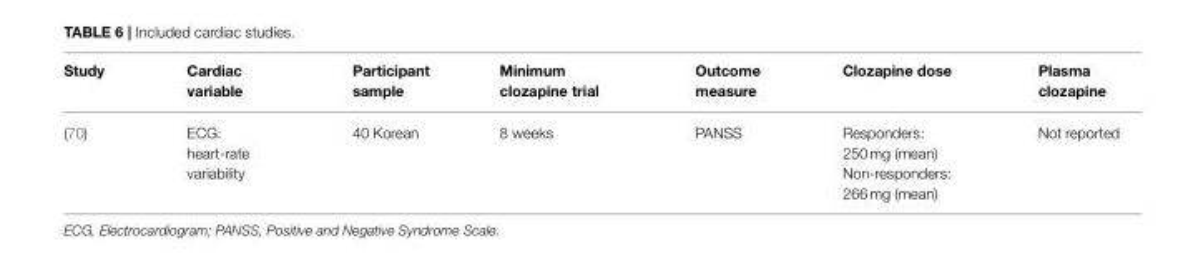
<table><thead><tr><td>Study</td><td>Cardiac variable</td><td>Participant sample</td><td>Minimum clozapine trial</td><td>Outcome measure</td><td>Clozapine dose</td><td>Plasma clozapine</td></tr></thead><tbody><tr><td>(70)</td><td>ECG: heart-rate variability</td><td>40 Korean</td><td>8 weeks</td><td>PANSS</td><td>Responders: 250 mg (mean) Non-responders: 266 mg (mean)</td><td>Not reported</td></tr></tbody></table>